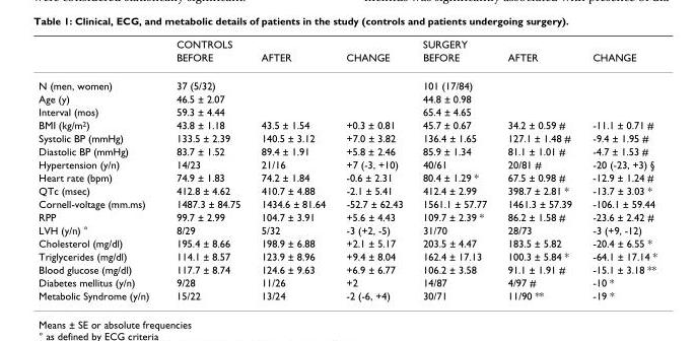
<table><thead><tr><td rowspan="2"></td><td rowspan="2">CONTROLS BEFORE</td><td rowspan="2">AFTER</td><td rowspan="2">CHANGE</td><td rowspan="2">SURGERY BEFORE</td><td rowspan="2">AFTER</td><td rowspan="2">CHANGE</td></tr><tr></tr></thead><tbody><tr><td>N (men, women)</td><td>37 (5/32)</td><td></td><td></td><td>101 (17/84)</td><td></td><td></td></tr><tr><td>Age (y)</td><td>46.5 ± 2.07</td><td></td><td></td><td>44.8 ± 0.98</td><td></td><td></td></tr><tr><td>Interval (mos)</td><td>59.3 ± 4.44</td><td></td><td></td><td>65.4 ± 4.65</td><td></td><td></td></tr><tr><td>BMI (kg/m<sup>2</sup>)</td><td>43.8 ± 1.18</td><td>43.5 ± 1.54</td><td>+0.3 ± 0.81</td><td>45.7 ± 0.67</td><td>34.2 ± 0.59 #</td><td>-11.1 ± 0.71 #</td></tr><tr><td>Systolic BP (mmHg)</td><td>133.5 ± 2.39</td><td>140.5 ± 3.12</td><td>+7.0 ± 3.82</td><td>136.4 ± 1.65</td><td>127.1 ± 1.48 #</td><td>-9.4 ± 1.95 #</td></tr><tr><td>Diastolic BP (mmHg)</td><td>83.7 ± 1.52</td><td>89.4 ± 1.91</td><td>+5.8 ± 2.46</td><td>85.9 ± 1.34</td><td>81.1 ± 1.01 #</td><td>-4.7 ± 1.53 #</td></tr><tr><td>Hypertension (y/n)</td><td>14/23</td><td>21/16</td><td>+7 (-3, +10)</td><td>40/61</td><td>20/81 #</td><td>-20 (-23, +3) §</td></tr><tr><td>Heart rate (bpm)</td><td>74.9 ± 1.83</td><td>74.2 ± 1.84</td><td>-0.6 ± 2.31</td><td>80.4 ± 1.29 *</td><td>67.5 ± 0.98 #</td><td>-12.9 ± 1.24 #</td></tr><tr><td>QTc (msec)</td><td>412.8 ± 4.62</td><td>410.7 ± 4.88</td><td>-2.1 ± 5.41</td><td>412.4 ± 2.99</td><td>398.7 ± 2.81 *</td><td>-13.7 ± 3.03 *</td></tr><tr><td>Cornell-voltage (mm.ms)</td><td>1487.3 ± 84.75</td><td>1434.6 ± 81.64</td><td>-52.7 ± 62.43</td><td>1561.1 ± 57.77</td><td>1461.3 ± 57.39</td><td>-106.1 ± 59.44</td></tr><tr><td>RPP</td><td>99.7 ± 2.99</td><td>104.7 ± 3.91</td><td>+5.6 ± 4.43</td><td>109.7 ± 2.39 *</td><td>86.2 ± 1.58 #</td><td>-23.6 ± 2.42 #</td></tr><tr><td>LVH (y/n) °</td><td>8/29</td><td>5/32</td><td>-3 (+2, -5)</td><td>31/70</td><td>28/73</td><td>-3 (+9, -12)</td></tr><tr><td>Cholesterol (mg/dl)</td><td>195.4 ± 8.66</td><td>198.9 ± 6.88</td><td>+2.1 ± 5.17</td><td>203.5 ± 4.47</td><td>183.5 ± 5.82</td><td>-20.4 ± 6.55 *</td></tr><tr><td>Triglycerides (mg/dl)</td><td>114.1 ± 8.57</td><td>123.9 ± 8.96</td><td>+9.4 ± 8.04</td><td>162.4 ± 17.13</td><td>100.3 ± 5.84 *</td><td>-64.1 ± 17.14 *</td></tr><tr><td>Blood glucose (mg/dl)</td><td>117.7 ± 8.74</td><td>124.6 ± 9.63</td><td>+6.9 ± 6.77</td><td>106.2 ± 3.58</td><td>91.1 ± 1.91 #</td><td>-15.1 ± 3.18 **</td></tr><tr><td>Diabetes mellitus (y/n)</td><td>9/28</td><td>11/26</td><td>+2</td><td>14/87</td><td>4/97 #</td><td>-10 *</td></tr><tr><td>Metabolic Syndrome (y/n)</td><td>15/22</td><td>13/24</td><td>-2 (-6, +4)</td><td>30/71</td><td>11/90 **</td><td>-19 *</td></tr></tbody></table>